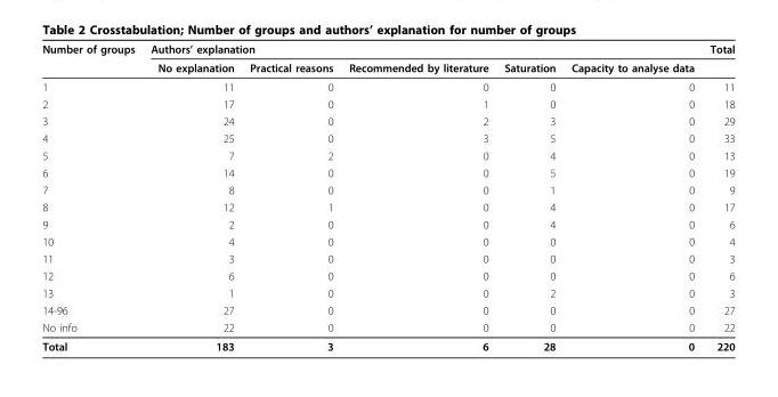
<table><thead><tr><td rowspan="2">Number of groups</td><td colspan="5">Authors’ explanation</td><td rowspan="2">Total</td></tr><tr><td>No explanation</td><td>Practical reasons</td><td>Recommended by literature</td><td>Saturation</td><td>Capacity to analyse data</td></tr></thead><tbody><tr><td>1</td><td>11</td><td>0</td><td>0</td><td>0</td><td>0</td><td>11</td></tr><tr><td>2</td><td>17</td><td>0</td><td>1</td><td>0</td><td>0</td><td>18</td></tr><tr><td>3</td><td>24</td><td>0</td><td>2</td><td>3</td><td>0</td><td>29</td></tr><tr><td>4</td><td>25</td><td>0</td><td>3</td><td>5</td><td>0</td><td>33</td></tr><tr><td>5</td><td>7</td><td>2</td><td>0</td><td>4</td><td>0</td><td>13</td></tr><tr><td>6</td><td>14</td><td>0</td><td>0</td><td>5</td><td>0</td><td>19</td></tr><tr><td>7</td><td>8</td><td>0</td><td>0</td><td>1</td><td>0</td><td>9</td></tr><tr><td>8</td><td>12</td><td>1</td><td>0</td><td>4</td><td>0</td><td>17</td></tr><tr><td>9</td><td>2</td><td>0</td><td>0</td><td>4</td><td>0</td><td>6</td></tr><tr><td>10</td><td>4</td><td>0</td><td>0</td><td>0</td><td>0</td><td>4</td></tr><tr><td>11</td><td>3</td><td>0</td><td>0</td><td>0</td><td>0</td><td>3</td></tr><tr><td>12</td><td>6</td><td>0</td><td>0</td><td>0</td><td>0</td><td>6</td></tr><tr><td>13</td><td>1</td><td>0</td><td>0</td><td>2</td><td>0</td><td>3</td></tr><tr><td>14-96</td><td>27</td><td>0</td><td>0</td><td>0</td><td>0</td><td>27</td></tr><tr><td>No info</td><td>22</td><td>0</td><td>0</td><td>0</td><td>0</td><td>22</td></tr><tr><td>Total</td><td>183</td><td>3</td><td>6</td><td>28</td><td>0</td><td>220</td></tr></tbody></table>